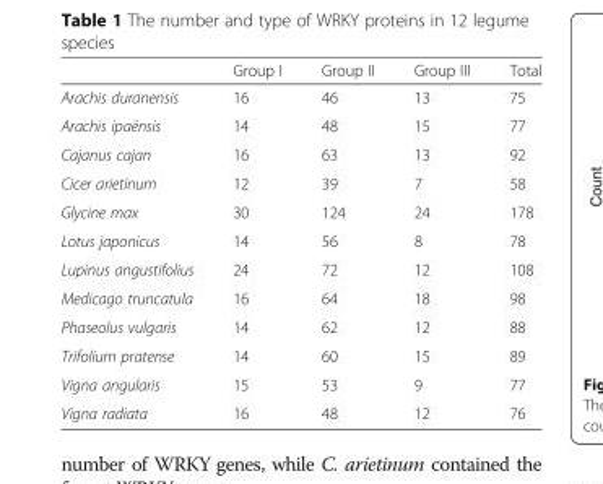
<table><thead><tr><td></td><td>Group I</td><td>Group II</td><td>Group III</td><td>Total</td></tr></thead><tbody><tr><td>Arachis duranensis</td><td>16</td><td>46</td><td>13</td><td>75</td></tr><tr><td>Arachis ipaënsis</td><td>14</td><td>48</td><td>15</td><td>77</td></tr><tr><td>Cajanus cajan</td><td>16</td><td>63</td><td>13</td><td>92</td></tr><tr><td>Cicer arietinum</td><td>12</td><td>39</td><td>7</td><td>58</td></tr><tr><td>Glycine max</td><td>30</td><td>124</td><td>24</td><td>178</td></tr><tr><td>Lotus japonicus</td><td>14</td><td>56</td><td>8</td><td>78</td></tr><tr><td>Lupinus angustifolius</td><td>24</td><td>72</td><td>12</td><td>108</td></tr><tr><td>Medicago truncatula</td><td>16</td><td>64</td><td>18</td><td>98</td></tr><tr><td>Phaseolus vulgaris</td><td>14</td><td>62</td><td>12</td><td>88</td></tr><tr><td>Trifolium pratense</td><td>14</td><td>60</td><td>15</td><td>89</td></tr><tr><td>Vigna angularis</td><td>15</td><td>53</td><td>9</td><td>77</td></tr><tr><td>Vigna radiata</td><td>16</td><td>48</td><td>12</td><td>76</td></tr></tbody></table>